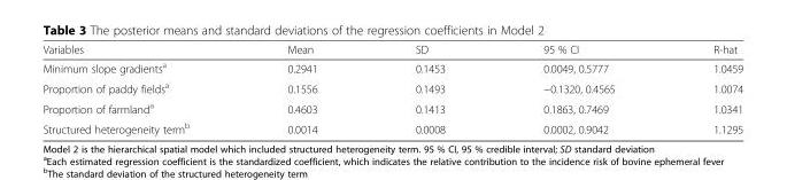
<table><thead><tr><td>Variables</td><td>Mean</td><td>SD</td><td>95 % CI</td><td>R-hat</td></tr></thead><tbody><tr><td>Minimum slope gradients<sup>a</sup></td><td>0.2941</td><td>0.1453</td><td>0.0049, 0.5777</td><td>1.0459</td></tr><tr><td>Proportion of paddy fields<sup>a</sup></td><td>0.1556</td><td>0.1493</td><td>−0.1320, 0.4565</td><td>1.0074</td></tr><tr><td>Proportion of farmland<sup>a</sup></td><td>0.4603</td><td>0.1413</td><td>0.1863, 0.7469</td><td>1.0341</td></tr><tr><td>Structured heterogeneity term<sup>b</sup></td><td>0.0014</td><td>0.0008</td><td>0.0002, 0.9042</td><td>1.1295</td></tr></tbody></table>